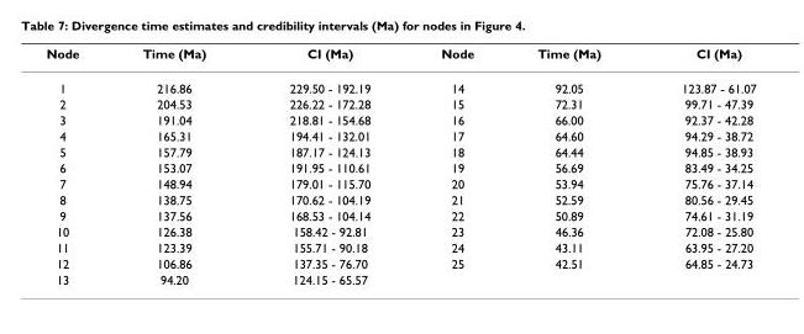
<table><thead><tr><td>Node</td><td>Time (Ma)</td><td>CI (Ma)</td><td>Node</td><td>Time (Ma)</td><td>CI (Ma)</td></tr></thead><tbody><tr><td>1</td><td>216.86</td><td>229.50 - 192.19</td><td>14</td><td>92.05</td><td>123.87 - 61.07</td></tr><tr><td>2</td><td>204.53</td><td>226.22 - 172.28</td><td>15</td><td>72.31</td><td>99.71 - 47.39</td></tr><tr><td>3</td><td>191.04</td><td>218.81 - 154.68</td><td>16</td><td>66.00</td><td>92.37 - 42.28</td></tr><tr><td>4</td><td>165.31</td><td>194.41 - 132.01</td><td>17</td><td>64.60</td><td>94.29 - 38.72</td></tr><tr><td>5</td><td>157.79</td><td>187.17 - 124.13</td><td>18</td><td>64.44</td><td>94.85 - 38.93</td></tr><tr><td>6</td><td>153.07</td><td>191.95 - 110.61</td><td>19</td><td>56.69</td><td>83.49 - 34.25</td></tr><tr><td>7</td><td>148.94</td><td>179.01 - 115.70</td><td>20</td><td>53.94</td><td>75.76 - 37.14</td></tr><tr><td>8</td><td>138.75</td><td>170.62 - 104.19</td><td>21</td><td>52.59</td><td>80.56 - 29.45</td></tr><tr><td>9</td><td>137.56</td><td>168.53 - 104.14</td><td>22</td><td>50.89</td><td>74.61 - 31.19</td></tr><tr><td>10</td><td>126.38</td><td>158.42 - 92.81</td><td>23</td><td>46.36</td><td>72.08 - 25.80</td></tr><tr><td>11</td><td>123.39</td><td>155.71 - 90.18</td><td>24</td><td>43.11</td><td>63.95 - 27.20</td></tr><tr><td>12</td><td>106.86</td><td>137.35 - 76.70</td><td>25</td><td>42.51</td><td>64.85 - 24.73</td></tr><tr><td>13</td><td>94.20</td><td>124.15 - 65.57</td><td></td><td></td><td></td></tr></tbody></table>